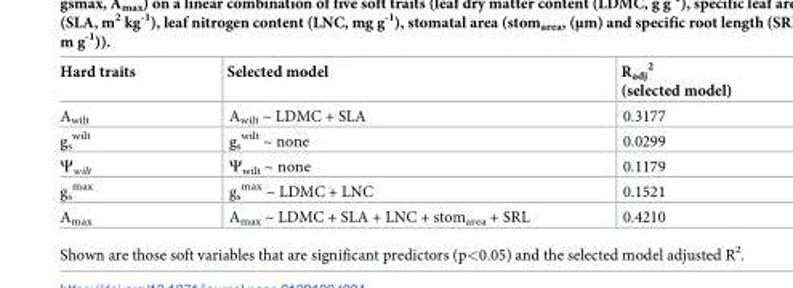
<table><thead><tr><td>Hard traits</td><td>Selected model</td><td>R<sub>adj</sub> <sup>2</sup> (selected model)</td></tr></thead><tbody><tr><td>A<sub>wilt</sub></td><td>A<sub>wilt</sub> ~ LDMC + SLA</td><td>0.3177</td></tr><tr><td>g<sub>s</sub> <sup>wilt</sup></td><td>g<sub>s</sub> <sup>wilt</sup> ~ none</td><td>0.0299</td></tr><tr><td>Ψ<sub>wilt</sub></td><td>Ψ<sub>wilt</sub> ~ none</td><td>0.1179</td></tr><tr><td>g<sub>s</sub> <sup>max</sup></td><td>g<sub>s</sub> <sup>max</sup> ~ LDMC + LNC</td><td>0.1521</td></tr><tr><td>A<sub>max</sub></td><td>A<sub>max</sub> ~ LDMC + SLA + LNC + stom<sub>area</sub> + SRL</td><td>0.4210</td></tr></tbody></table>